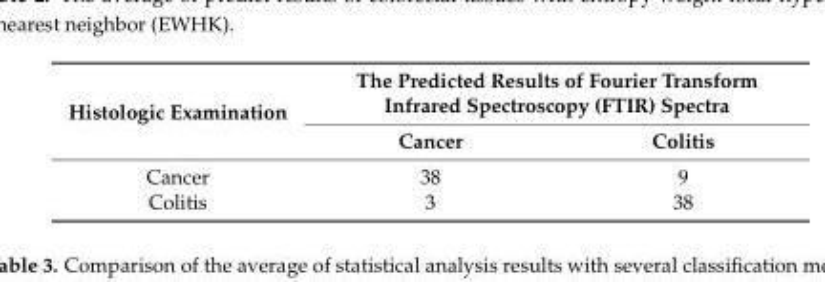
<table><thead><tr><td rowspan="2">Histologic Examination</td><td colspan="2">The Predicted Results of Fourier Transform Infrared Spectroscopy (FTIR) Spectra</td></tr><tr><td>Cancer</td><td>Colitis</td></tr></thead><tbody><tr><td>Cancer</td><td>38</td><td>9</td></tr><tr><td>Colitis</td><td>3</td><td>38</td></tr></tbody></table>